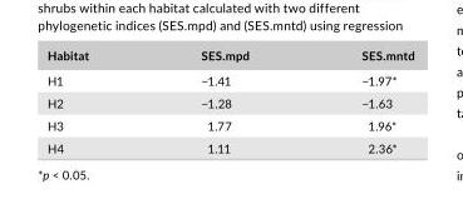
<table><thead><tr><td>Habitat</td><td>SES.mpd</td><td>SES.mntd</td></tr></thead><tbody><tr><td>H1</td><td>−1.41</td><td>−1.97*</td></tr><tr><td>H2</td><td>−1.28</td><td>−1.63</td></tr><tr><td>H3</td><td>1.77</td><td>1.96*</td></tr><tr><td>H4</td><td>1.11</td><td>2.36*</td></tr></tbody></table>